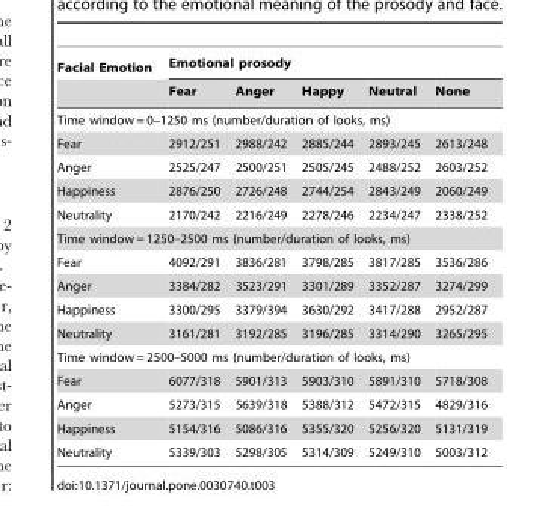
<table><thead><tr><td rowspan="2">Facial Emotion</td><td colspan="5">Emotional prosody</td></tr><tr><td>Fear</td><td>Anger</td><td>Happy</td><td>Neutral</td><td>None</td></tr></thead><tbody><tr><td colspan="6">Time window = 0–1250 ms (number/duration of looks, ms)</td></tr><tr><td>Fear</td><td>2912/251</td><td>2988/242</td><td>2885/244</td><td>2893/245</td><td>2613/248</td></tr><tr><td>Anger</td><td>2525/247</td><td>2500/251</td><td>2505/245</td><td>2488/252</td><td>2603/252</td></tr><tr><td>Happiness</td><td>2876/250</td><td>2726/248</td><td>2744/254</td><td>2843/249</td><td>2060/249</td></tr><tr><td>Neutrality</td><td>2170/242</td><td>2216/249</td><td>2278/246</td><td>2234/247</td><td>2338/252</td></tr><tr><td colspan="6">Time window = 1250–2500 ms (number/duration of looks, ms)</td></tr><tr><td>Fear</td><td>4092/291</td><td>3836/281</td><td>3798/285</td><td>3817/285</td><td>3536/286</td></tr><tr><td>Anger</td><td>3384/282</td><td>3523/291</td><td>3301/289</td><td>3352/287</td><td>3274/299</td></tr><tr><td>Happiness</td><td>3300/295</td><td>3379/394</td><td>3630/292</td><td>3417/288</td><td>2952/287</td></tr><tr><td>Neutrality</td><td>3161/281</td><td>3192/285</td><td>3196/285</td><td>3314/290</td><td>3265/295</td></tr><tr><td colspan="6">Time window = 2500–5000 ms (number/duration of looks, ms)</td></tr><tr><td>Fear</td><td>6077/318</td><td>5901/313</td><td>5903/310</td><td>5891/310</td><td>5718/308</td></tr><tr><td>Anger</td><td>5273/315</td><td>5639/318</td><td>5388/312</td><td>5472/315</td><td>4829/316</td></tr><tr><td>Happiness</td><td>5154/316</td><td>5086/316</td><td>5355/320</td><td>5256/320</td><td>5131/319</td></tr><tr><td>Neutrality</td><td>5339/303</td><td>5298/305</td><td>5314/309</td><td>5249/310</td><td>5003/312</td></tr></tbody></table>